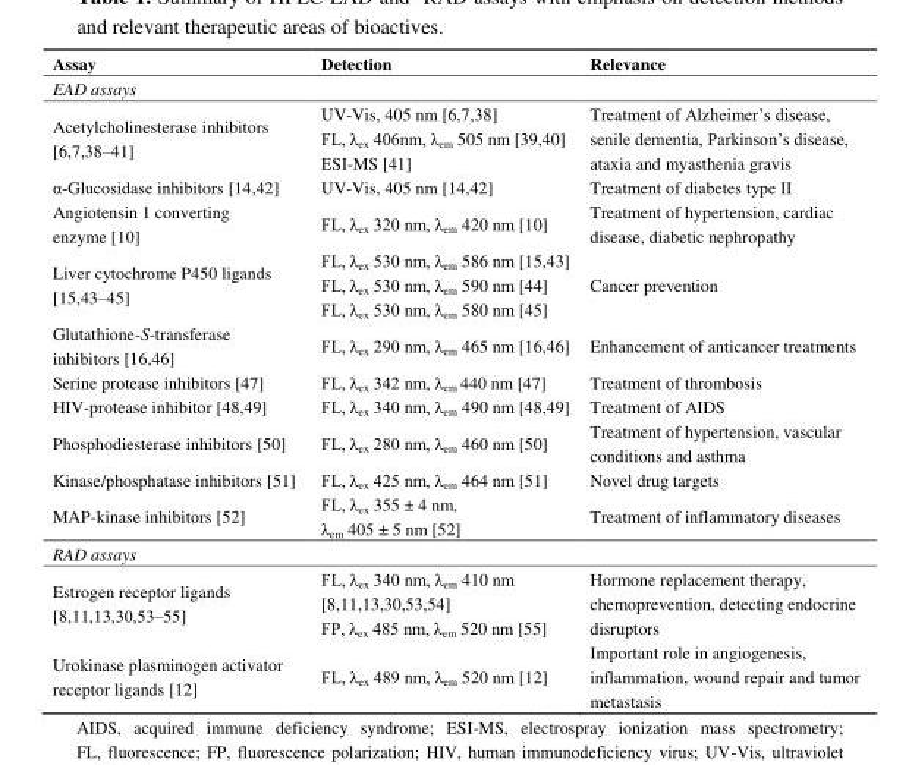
<table><thead><tr><td>Assay</td><td>Detection</td><td>Relevance</td></tr></thead><tbody><tr><td colspan="3">EAD assays</td></tr><tr><td>Acetylcholinesterase inhibitors [6,7,38–41]</td><td>UV-Vis, 405 nm [6,7,38] FL, λ<sub>ex</sub> 406nm, λ<sub>em</sub> 505 nm [39,40] ESI-MS [41]</td><td>Treatment of Alzheimer’s disease, senile dementia, Parkinson’s disease, ataxia and myasthenia gravis</td></tr><tr><td>α-Glucosidase inhibitors [14,42]</td><td>UV-Vis, 405 nm [14,42]</td><td>Treatment of diabetes type II</td></tr><tr><td>Angiotensin 1 converting enzyme [10]</td><td>FL, λ<sub>ex</sub> 320 nm, λ<sub>em</sub> 420 nm [10]</td><td>Treatment of hypertension, cardiac disease, diabetic nephropathy</td></tr><tr><td>Liver cytochrome P450 ligands [15,43–45]</td><td>FL, λ<sub>ex</sub> 530 nm, λ<sub>em</sub> 586 nm [15,43] FL, λ<sub>ex</sub> 530 nm, λ<sub>em</sub> 590 nm [44] FL, λ<sub>ex</sub> 530 nm, λ<sub>em</sub> 580 nm [45]</td><td>Cancer prevention</td></tr><tr><td>Glutathione-S-transferase inhibitors [16,46]</td><td>FL, λ<sub>ex</sub> 290 nm, λ<sub>em</sub> 465 nm [16,46]</td><td>Enhancement of anticancer treatments</td></tr><tr><td>Serine protease inhibitors [47]</td><td>FL, λ<sub>ex</sub> 342 nm, λ<sub>em</sub> 440 nm [47]</td><td>Treatment of thrombosis</td></tr><tr><td>HIV-protease inhibitor [48,49]</td><td>FL, λ<sub>ex</sub> 340 nm, λ<sub>em</sub> 490 nm [48,49]</td><td>Treatment of AIDS</td></tr><tr><td>Phosphodiesterase inhibitors [50]</td><td>FL, λ<sub>ex</sub> 280 nm, λ<sub>em</sub> 460 nm [50]</td><td>Treatment of hypertension, vascular conditions and asthma</td></tr><tr><td>Kinase/phosphatase inhibitors [51]</td><td>FL, λ<sub>ex</sub> 425 nm, λ<sub>em</sub> 464 nm [51]</td><td>Novel drug targets</td></tr><tr><td>MAP-kinase inhibitors [52]</td><td>FL, λ<sub>ex</sub> 355 ± 4 nm, λ<sub>em</sub> 405 ± 5 nm [52]</td><td>Treatment of inflammatory diseases</td></tr><tr><td colspan="3">RAD assays</td></tr><tr><td>Estrogen receptor ligands [8,11,13,30,53–55]</td><td>FL, λ<sub>ex</sub> 340 nm, λ<sub>em</sub> 410 nm [8,11,13,30,53,54] FP, λ<sub>ex</sub> 485 nm, λ<sub>em</sub> 520 nm [55]</td><td>Hormone replacement therapy, chemoprevention, detecting endocrine disruptors</td></tr><tr><td>Urokinase plasminogen activator receptor ligands [12]</td><td>FL, λ<sub>ex</sub> 489 nm, λ<sub>em</sub> 520 nm [12]</td><td>Important role in angiogenesis, inflammation, wound repair and tumor metastasis</td></tr></tbody></table>